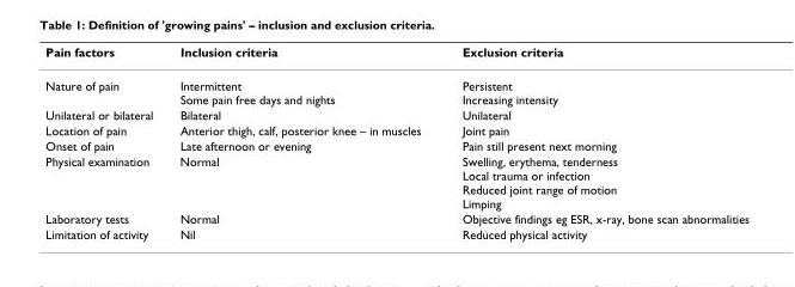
<table><thead><tr><td>Pain factors</td><td>Inclusion criteria</td><td>Exclusion criteria</td></tr></thead><tbody><tr><td>Nature of pain</td><td>Intermittent Some pain free days and nights</td><td>Persistent Increasing intensity</td></tr><tr><td>Unilateral or bilateral</td><td>Bilateral</td><td>Unilateral</td></tr><tr><td>Location of pain</td><td>Anterior thigh, calf, posterior knee – in muscles</td><td>Joint pain</td></tr><tr><td>Onset of pain</td><td>Late afternoon or evening</td><td>Pain still present next morning</td></tr><tr><td>Physical examination</td><td>Normal</td><td>Swelling, erythema, tenderness Local trauma or infection Reduced joint range of motion Limping</td></tr><tr><td>Laboratory tests</td><td>Normal</td><td>Objective findings eg ESR, x-ray, bone scan abnormalities</td></tr><tr><td>Limitation of activity</td><td>Nil</td><td>Reduced physical activity</td></tr></tbody></table>